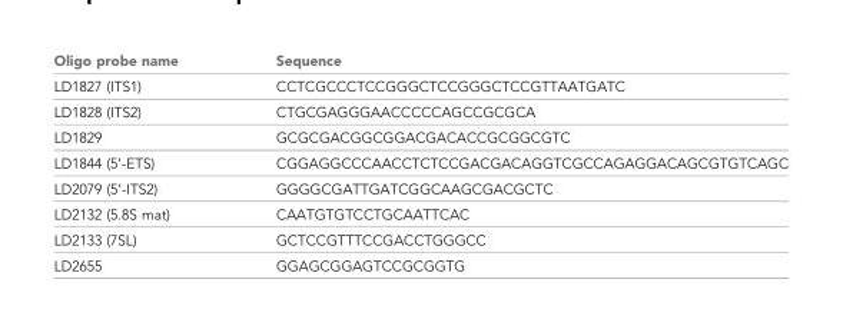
<table><thead><tr><td>Oligo probe name</td><td>Sequence</td></tr></thead><tbody><tr><td>LD1827 (ITS1)</td><td>CCTCGCCCTCCGGGCTCCGGGCTCCGTTAATGATC</td></tr><tr><td>LD1828 (ITS2)</td><td>CTGCGAGGGAACCCCCAGCCGCGCA</td></tr><tr><td>LD1829</td><td>GCGCGACGGCGGACGACACCGCGGCGTC</td></tr><tr><td>LD1844 (5’-ETS)</td><td>CGGAGGCCCAACCTCTCCGACGACAGGTCGCCAGAGGACAGCGTGTCAGC</td></tr><tr><td>LD2079 (5’-ITS2)</td><td>GGGGCGATTGATCGGCAAGCGACGCTC</td></tr><tr><td>LD2132 (5.8S mat)</td><td>CAATGTGTCCTGCAATTCAC</td></tr><tr><td>LD2133 (7SL)</td><td>GCTCCGTTTCCGACCTGGGCC</td></tr><tr><td>LD2655</td><td>GGAGCGGAGTCCGCGGTG</td></tr></tbody></table>